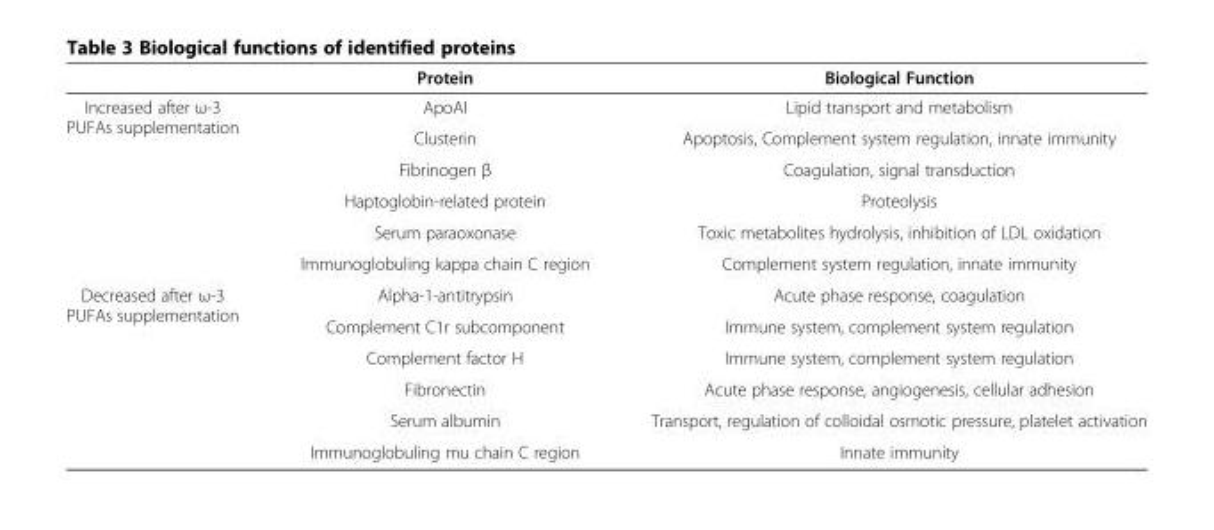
<table><thead><tr><td></td><td>Protein</td><td>Biological Function</td></tr></thead><tbody><tr><td rowspan="6">Increased after ω-3 PUFAs supplementation</td><td>ApoAI</td><td>Lipid transport and metabolism</td></tr><tr><td>Clusterin</td><td>Apoptosis, Complement system regulation, innate immunity</td></tr><tr><td>Fibrinogen β</td><td>Coagulation, signal transduction</td></tr><tr><td>Haptoglobin-related protein</td><td>Proteolysis</td></tr><tr><td>Serum paraoxonase</td><td>Toxic metabolites hydrolysis, inhibition of LDL oxidation</td></tr><tr><td>Immunoglobuling kappa chain C region</td><td>Complement system regulation, innate immunity</td></tr><tr><td rowspan="6">Decreased after ω-3 PUFAs supplementation</td><td>Alpha-1-antitrypsin</td><td>Acute phase response, coagulation</td></tr><tr><td>Complement C1r subcomponent</td><td>Immune system, complement system regulation</td></tr><tr><td>Complement factor H</td><td>Immune system, complement system regulation</td></tr><tr><td>Fibronectin</td><td>Acute phase response, angiogenesis, cellular adhesion</td></tr><tr><td>Serum albumin</td><td>Transport, regulation of colloidal osmotic pressure, platelet activation</td></tr><tr><td>Immunoglobuling mu chain C region</td><td>Innate immunity</td></tr></tbody></table>